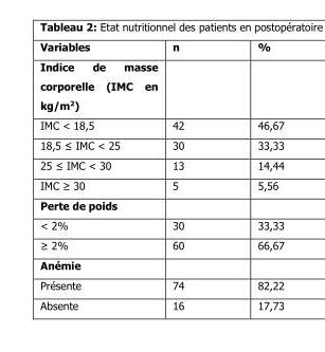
<table><thead><tr><td>Variables</td><td>n</td><td>%</td></tr></thead><tbody><tr><td colspan="3">Indice de masse corporelle (IMC en kg/m<sup>2</sup>)</td></tr><tr><td>IMC &lt; 18,5</td><td>42</td><td>46,67</td></tr><tr><td>18,5 ≤ IMC &lt; 25</td><td>30</td><td>33,33</td></tr><tr><td>25 ≤ IMC &lt; 30</td><td>13</td><td>14,44</td></tr><tr><td>IMC ≥ 30</td><td>5</td><td>5,56</td></tr><tr><td colspan="3">Perte de poids</td></tr><tr><td>&lt; 2%</td><td>30</td><td>33,33</td></tr><tr><td>≥ 2%</td><td>60</td><td>66,67</td></tr><tr><td colspan="3">Anémie</td></tr><tr><td>Présente</td><td>74</td><td>82,22</td></tr><tr><td>Absente</td><td>16</td><td>17,73</td></tr></tbody></table>